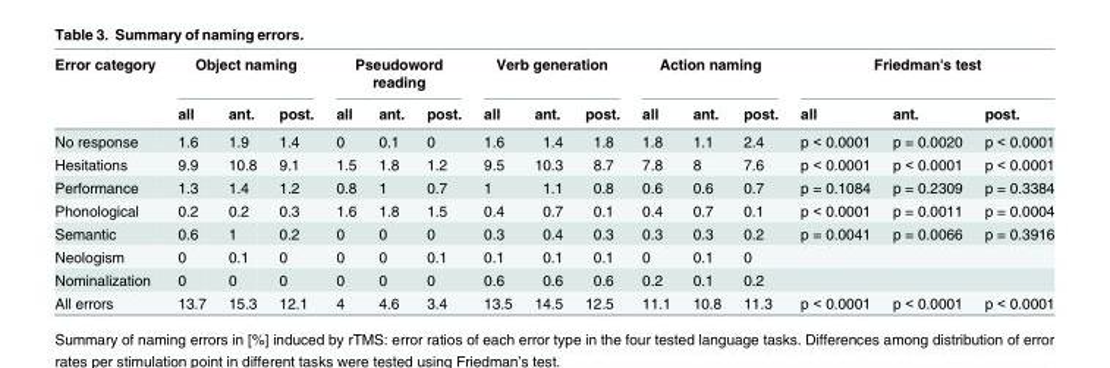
<table><thead><tr><td rowspan="2">Error category</td><td colspan="3">Object naming</td><td colspan="3">Pseudoword reading</td><td colspan="3">Verb generation</td><td colspan="3">Action naming</td><td colspan="3">Friedman&#x27;s test</td></tr><tr><td>all</td><td>ant.</td><td>post.</td><td>all</td><td>ant.</td><td>post.</td><td>all</td><td>ant.</td><td>post.</td><td>all</td><td>ant.</td><td>post.</td><td>all</td><td>ant.</td><td>post.</td></tr></thead><tbody><tr><td>No response</td><td>1.6</td><td>1.9</td><td>1.4</td><td>0</td><td>0.1</td><td>0</td><td>1.6</td><td>1.4</td><td>1.8</td><td>1.8</td><td>1.1</td><td>2.4</td><td>p &lt; 0.0001</td><td>p = 0.0020</td><td>p &lt; 0.0001</td></tr><tr><td>Hesitations</td><td>9.9</td><td>10.8</td><td>9.1</td><td>1.5</td><td>1.8</td><td>1.2</td><td>9.5</td><td>10.3</td><td>8.7</td><td>7.8</td><td>8</td><td>7.6</td><td>p &lt; 0.0001</td><td>p &lt; 0.0001</td><td>p &lt; 0.0001</td></tr><tr><td>Performance</td><td>1.3</td><td>1.4</td><td>1.2</td><td>0.8</td><td>1</td><td>0.7</td><td>1</td><td>1.1</td><td>0.8</td><td>0.6</td><td>0.6</td><td>0.7</td><td>p = 0.1084</td><td>p = 0.2309</td><td>p = 0.3384</td></tr><tr><td>Phonological</td><td>0.2</td><td>0.2</td><td>0.3</td><td>1.6</td><td>1.8</td><td>1.5</td><td>0.4</td><td>0.7</td><td>0.1</td><td>0.4</td><td>0.7</td><td>0.1</td><td>p &lt; 0.0001</td><td>p = 0.0011</td><td>p = 0.0004</td></tr><tr><td>Semantic</td><td>0.6</td><td>1</td><td>0.2</td><td>0</td><td>0</td><td>0</td><td>0.3</td><td>0.4</td><td>0.3</td><td>0.3</td><td>0.3</td><td>0.2</td><td>p = 0.0041</td><td>p = 0.0066</td><td>p = 0.3916</td></tr><tr><td>Neologism</td><td>0</td><td>0.1</td><td>0</td><td>0</td><td>0</td><td>0.1</td><td>0.1</td><td>0.1</td><td>0.1</td><td>0</td><td>0.1</td><td>0</td><td></td><td></td><td></td></tr><tr><td>Nominalization</td><td>0</td><td>0</td><td>0</td><td>0</td><td>0</td><td>0</td><td>0.6</td><td>0.6</td><td>0.6</td><td>0.2</td><td>0.1</td><td>0.2</td><td></td><td></td><td></td></tr><tr><td>All errors</td><td>13.7</td><td>15.3</td><td>12.1</td><td>4</td><td>4.6</td><td>3.4</td><td>13.5</td><td>14.5</td><td>12.5</td><td>11.1</td><td>10.8</td><td>11.3</td><td>p &lt; 0.0001</td><td>p &lt; 0.0001</td><td>p &lt; 0.0001</td></tr></tbody></table>